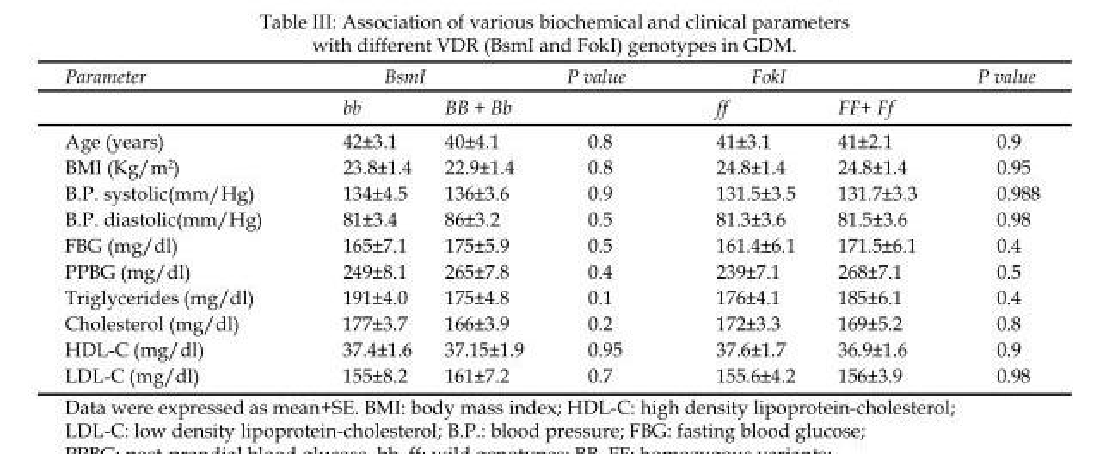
<table><thead><tr><td rowspan="2">Parameter</td><td colspan="2">BsmI</td><td rowspan="2">P value</td><td colspan="2">FokI</td><td rowspan="2">P value</td></tr><tr><td>bb</td><td>BB + Bb</td><td>ff</td><td>FF+ Ff</td></tr></thead><tbody><tr><td>Age (years)</td><td>42±3.1</td><td>40±4.1</td><td>0.8</td><td>41±3.1</td><td>41±2.1</td><td>0.9</td></tr><tr><td>BMI (Kg/m<sup>2</sup>)</td><td>23.8±1.4</td><td>22.9±1.4</td><td>0.8</td><td>24.8±1.4</td><td>24.8±1.4</td><td>0.95</td></tr><tr><td>B.P. systolic(mm/Hg)</td><td>134±4.5</td><td>136±3.6</td><td>0.9</td><td>131.5±3.5</td><td>131.7±3.3</td><td>0.988</td></tr><tr><td>B.P. diastolic(mm/Hg)</td><td>81±3.4</td><td>86±3.2</td><td>0.5</td><td>81.3±3.6</td><td>81.5±3.6</td><td>0.98</td></tr><tr><td>FBG (mg/dl)</td><td>165±7.1</td><td>175±5.9</td><td>0.5</td><td>161.4±6.1</td><td>171.5±6.1</td><td>0.4</td></tr><tr><td>PPBG (mg/dl)</td><td>249±8.1</td><td>265±7.8</td><td>0.4</td><td>239±7.1</td><td>268±7.1</td><td>0.5</td></tr><tr><td>Triglycerides (mg/dl)</td><td>191±4.0</td><td>175±4.8</td><td>0.1</td><td>176±4.1</td><td>185±6.1</td><td>0.4</td></tr><tr><td>Cholesterol (mg/dl)</td><td>177±3.7</td><td>166±3.9</td><td>0.2</td><td>172±3.3</td><td>169±5.2</td><td>0.8</td></tr><tr><td>HDL-C (mg/dl)</td><td>37.4±1.6</td><td>37.15±1.9</td><td>0.95</td><td>37.6±1.7</td><td>36.9±1.6</td><td>0.9</td></tr><tr><td>LDL-C (mg/dl)</td><td>155±8.2</td><td>161±7.2</td><td>0.7</td><td>155.6±4.2</td><td>156±3.9</td><td>0.98</td></tr></tbody></table>